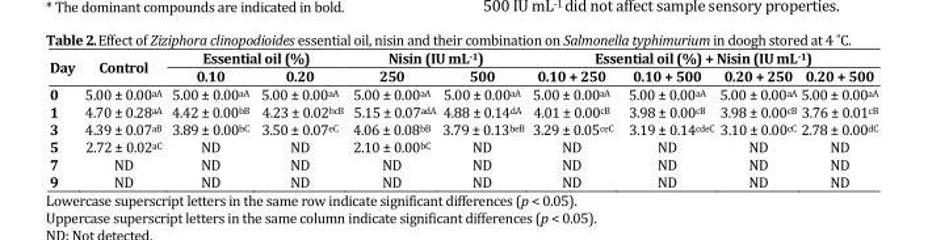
<table><thead><tr><td rowspan="2">Day</td><td rowspan="2">Control</td><td colspan="2">Essential oil (%)</td><td colspan="2">Nisin (IU mL<sup>-1</sup>)</td><td colspan="4">Essential oil (%) + Nisin (IU mL<sup>-1</sup>)</td></tr><tr><td>0.10</td><td>0.20</td><td>250</td><td>500</td><td>0.10 + 250</td><td>0.10 + 500</td><td>0.20 + 250</td><td>0.20 + 500</td></tr></thead><tbody><tr><td>0</td><td>5.00 ± 0.00<sup>aA</sup></td><td>5.00 ± 0.00<sup>aA</sup></td><td>5.00 ± 0.00<sup>aA</sup></td><td>5.00 ± 0.00<sup>aA</sup></td><td>5.00 ± 0.00<sup>aA</sup></td><td>5.00 ± 0.00<sup>aA</sup></td><td>5.00 ± 0.00<sup>aA</sup></td><td>5.00 ± 0.00<sup>aA</sup></td><td>5.00 ± 0.00<sup>aA</sup></td></tr><tr><td>1</td><td>4.70 ± 0.28<sup>aA</sup></td><td>4.42 ± 0.00<sup>bB</sup></td><td>4.23 ± 0.02<sup>bcB</sup></td><td>5.15 ± 0.07<sup>adA</sup></td><td>4.88 ± 0.14<sup>dA</sup></td><td>4.01 ± 0.00<sup>cB</sup></td><td>3.98 ± 0.00<sup>cB</sup></td><td>3.98 ± 0.00<sup>cB</sup></td><td>3.76 ± 0.01<sup>cB</sup></td></tr><tr><td>3</td><td>4.39 ± 0.07<sup>aB</sup></td><td>3.89 ± 0.00<sup>bC</sup></td><td>3.50 ± 0.07<sup>eC</sup></td><td>4.06 ± 0.08<sup>bB</sup></td><td>3.79 ± 0.13<sup>beB</sup></td><td>3.29 ± 0.05<sup>ceC</sup></td><td>3.19 ± 0.14<sup>cdeC</sup></td><td>3.10 ± 0.00<sup>cC</sup></td><td>2.78 ± 0.00<sup>dC</sup></td></tr><tr><td>5</td><td>2.72 ± 0.02<sup>aC</sup></td><td>ND</td><td>ND</td><td>2.10 ± 0.00<sup>bC</sup></td><td>ND</td><td>ND</td><td>ND</td><td>ND</td><td>ND</td></tr><tr><td>7</td><td>ND</td><td>ND</td><td>ND</td><td>ND</td><td>ND</td><td>ND</td><td>ND</td><td>ND</td><td>ND</td></tr><tr><td>9</td><td>ND</td><td>ND</td><td>ND</td><td>ND</td><td>ND</td><td>ND</td><td>ND</td><td>ND</td><td>ND</td></tr></tbody></table>